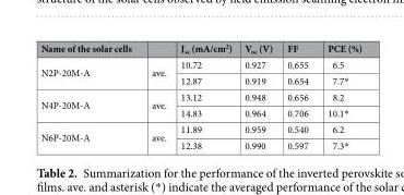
<table><thead><tr><td>Name of the solar cells</td><td></td><td>J<sub>sc</sub> (mA/cm<sup>2</sup>)</td><td>V<sub>oc</sub> (V)</td><td>FF</td><td>PCE (%)</td></tr></thead><tbody><tr><td rowspan="2">N2P-20M-A</td><td rowspan="2">ave.</td><td>10.72</td><td>0.927</td><td>0.655</td><td>6.5</td></tr><tr><td>12.87</td><td>0.919</td><td>0.654</td><td>7.7*</td></tr><tr><td rowspan="2">N4P-20M-A</td><td rowspan="2">ave.</td><td>13.12</td><td>0.948</td><td>0.656</td><td>8.2</td></tr><tr><td>14.83</td><td>0.964</td><td>0.706</td><td>10.1*</td></tr><tr><td rowspan="2">N6P-20M-A</td><td rowspan="2">ave.</td><td>11.89</td><td>0.959</td><td>0.540</td><td>6.2</td></tr><tr><td>12.38</td><td>0.990</td><td>0.597</td><td>7.3*</td></tr></tbody></table>